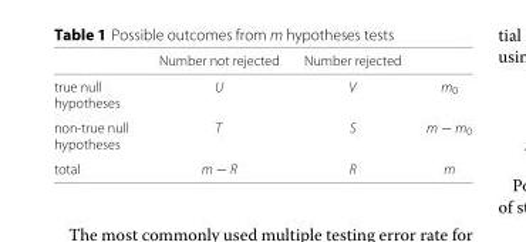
<table><thead><tr><td></td><td>Number not rejected</td><td>Number rejected</td><td></td></tr></thead><tbody><tr><td>true null hypotheses</td><td>U</td><td>V</td><td>m<sub>0</sub></td></tr><tr><td>non-true null hypotheses</td><td>T</td><td>S</td><td>m − m<sub>0</sub></td></tr><tr><td>total</td><td>m − R</td><td>R</td><td>m</td></tr></tbody></table>